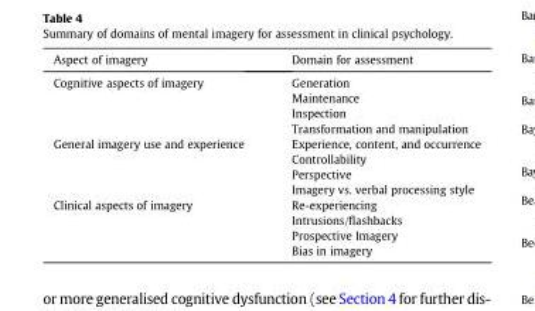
<table><thead><tr><td>Aspect of imagery</td><td>Domain for assessment</td></tr></thead><tbody><tr><td>Cognitive aspects of imagery</td><td>Generation Maintenance Inspection Transformation and manipulation</td></tr><tr><td>General imagery use and experience</td><td>Experience, content, and occurrence Controllability Perspective Imagery vs. verbal processing style</td></tr><tr><td>Clinical aspects of imagery</td><td>Re-experiencing Intrusions/flashbacks Prospective Imagery Bias in imagery</td></tr></tbody></table>